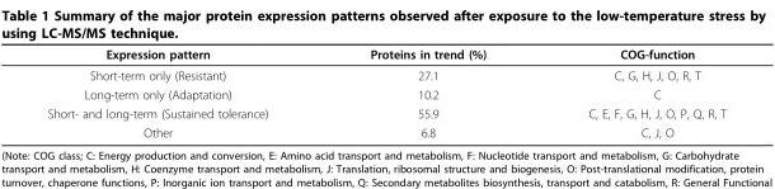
<table><thead><tr><td>Expression pattern</td><td>Proteins in trend (%)</td><td>COG-function</td></tr></thead><tbody><tr><td>Short-term only (Resistant)</td><td>27.1</td><td>C, G, H, J, O, R, T</td></tr><tr><td>Long-term only (Adaptation)</td><td>10.2</td><td>C</td></tr><tr><td>Short- and long-term (Sustained tolerance)</td><td>55.9</td><td>C, E, F, G, H, J, O, P, Q, R, T</td></tr><tr><td>Other</td><td>6.8</td><td>C, J, O</td></tr></tbody></table>